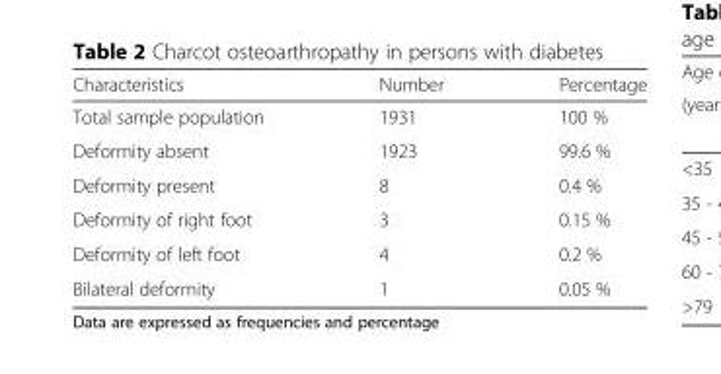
<table><thead><tr><td>Characteristics</td><td>Number</td><td>Percentage</td></tr></thead><tbody><tr><td>Total sample population</td><td>1931</td><td>100 %</td></tr><tr><td>Deformity absent</td><td>1923</td><td>99.6 %</td></tr><tr><td>Deformity present</td><td>8</td><td>0.4 %</td></tr><tr><td>Deformity of right foot</td><td>3</td><td>0.15 %</td></tr><tr><td>Deformity of left foot</td><td>4</td><td>0.2 %</td></tr><tr><td>Bilateral deformity</td><td>1</td><td>0.05 %</td></tr></tbody></table>